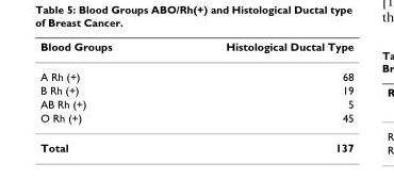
<table><thead><tr><td>Blood Groups</td><td>Histological Ductal Type</td></tr></thead><tbody><tr><td>A Rh (+)</td><td>68</td></tr><tr><td>B Rh (+)</td><td>19</td></tr><tr><td>AB Rh (+)</td><td>5</td></tr><tr><td>O Rh (+)</td><td>45</td></tr><tr><td>Total</td><td>137</td></tr></tbody></table>